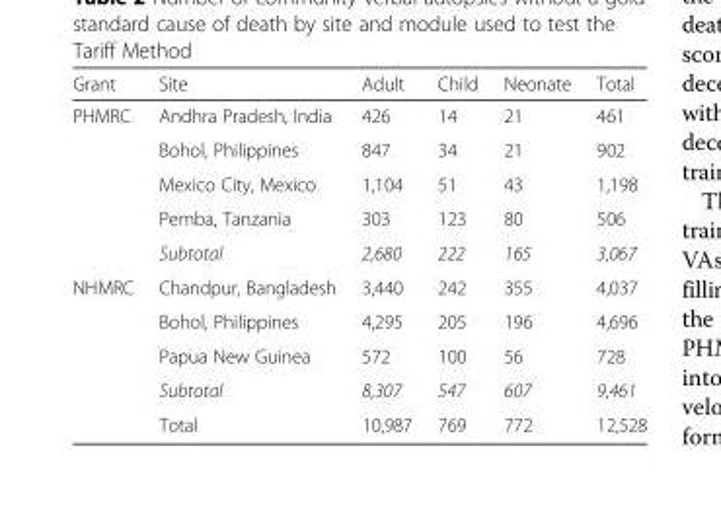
<table><thead><tr><td>Grant</td><td>Site</td><td>Adult</td><td>Child</td><td>Neonate</td><td>Total</td></tr></thead><tbody><tr><td rowspan="5">PHMRC</td><td>Andhra Pradesh, India</td><td>426</td><td>14</td><td>21</td><td>461</td></tr><tr><td>Bohol, Philippines</td><td>847</td><td>34</td><td>21</td><td>902</td></tr><tr><td>Mexico City, Mexico</td><td>1,104</td><td>51</td><td>43</td><td>1,198</td></tr><tr><td>Pemba, Tanzania</td><td>303</td><td>123</td><td>80</td><td>506</td></tr><tr><td>Subtotal</td><td>2,680</td><td>222</td><td>165</td><td>3,067</td></tr><tr><td rowspan="5">NHMRC</td><td>Chandpur, Bangladesh</td><td>3,440</td><td>242</td><td>355</td><td>4,037</td></tr><tr><td>Bohol, Philippines</td><td>4,295</td><td>205</td><td>196</td><td>4,696</td></tr><tr><td>Papua New Guinea</td><td>572</td><td>100</td><td>56</td><td>728</td></tr><tr><td>Subtotal</td><td>8,307</td><td>547</td><td>607</td><td>9,461</td></tr><tr><td>Total</td><td>10,987</td><td>769</td><td>772</td><td>12,528</td></tr></tbody></table>